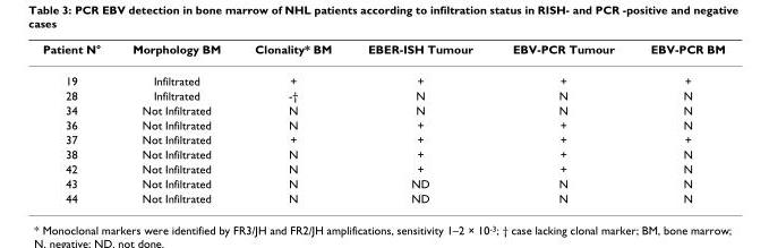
<table><thead><tr><td>Patient N°</td><td>Morphology BM</td><td>Clonality* BM</td><td>EBER-ISH Tumour</td><td>EBV-PCR Tumour</td><td>EBV-PCR BM</td></tr></thead><tbody><tr><td>19</td><td>Infiltrated</td><td>+</td><td>+</td><td>+</td><td>+</td></tr><tr><td>28</td><td>Infiltrated</td><td>-†</td><td>N</td><td>N</td><td>N</td></tr><tr><td>34</td><td>Not Infiltrated</td><td>N</td><td>N</td><td>N</td><td>N</td></tr><tr><td>36</td><td>Not Infiltrated</td><td>N</td><td>+</td><td>+</td><td>N</td></tr><tr><td>37</td><td>Not Infiltrated</td><td>+</td><td>+</td><td>+</td><td>+</td></tr><tr><td>38</td><td>Not Infiltrated</td><td>N</td><td>+</td><td>+</td><td>N</td></tr><tr><td>42</td><td>Not Infiltrated</td><td>N</td><td>+</td><td>+</td><td>N</td></tr><tr><td>43</td><td>Not Infiltrated</td><td>N</td><td>ND</td><td>N</td><td>N</td></tr><tr><td>44</td><td>Not Infiltrated</td><td>N</td><td>ND</td><td>N</td><td>N</td></tr></tbody></table>